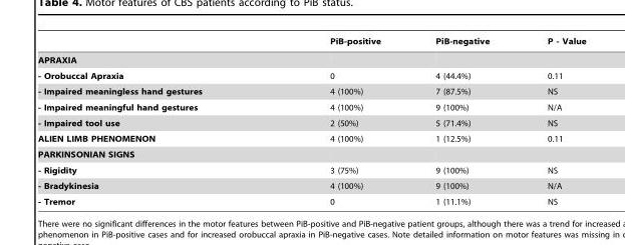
<table><thead><tr><td></td><td>PiB-positive</td><td>PiB-negative</td><td>P - Value</td></tr></thead><tbody><tr><td colspan="4">APRAXIA</td></tr><tr><td>- Orobuccal Apraxia</td><td>0</td><td>4 (44.4%)</td><td>0.11</td></tr><tr><td>- Impaired meaningless hand gestures</td><td>4 (100%)</td><td>7 (87.5%)</td><td>NS</td></tr><tr><td>- Impaired meaningful hand gestures</td><td>4 (100%)</td><td>9 (100%)</td><td>N/A</td></tr><tr><td>- Impaired tool use</td><td>2 (50%)</td><td>5 (71.4%)</td><td>NS</td></tr><tr><td>ALIEN LIMB PHENOMENON</td><td>4 (100%)</td><td>1 (12.5%)</td><td>0.11</td></tr><tr><td colspan="4">PARKINSONIAN SIGNS</td></tr><tr><td>- Rigidity</td><td>3 (75%)</td><td>9 (100%)</td><td>NS</td></tr><tr><td>- Bradykinesia</td><td>4 (100%)</td><td>9 (100%)</td><td>N/A</td></tr><tr><td>- Tremor</td><td>0</td><td>1 (11.1%)</td><td>NS</td></tr></tbody></table>